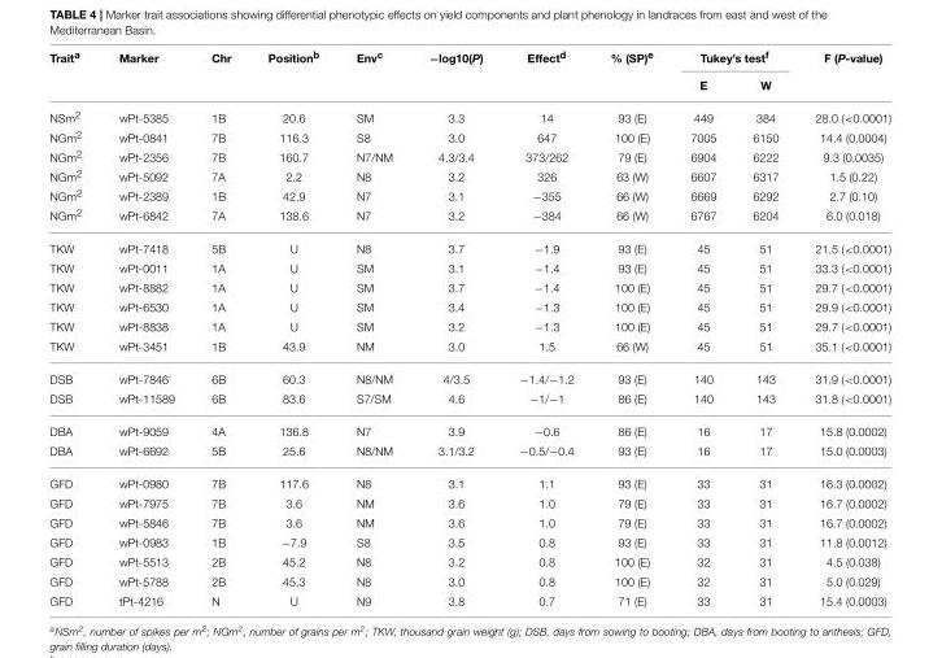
<table><thead><tr><td rowspan="2">Trait<sup>a</sup></td><td rowspan="2">Marker</td><td rowspan="2">Chr</td><td rowspan="2">Position<sup>b</sup></td><td rowspan="2">Env<sup>c</sup></td><td rowspan="2">−log10(P)</td><td rowspan="2">Effect<sup>d</sup></td><td rowspan="2">% (SP)<sup>e</sup></td><td colspan="2">Tukey’s test<sup>f</sup></td><td rowspan="2">F (P-value)</td></tr><tr><td>E</td><td>W</td></tr></thead><tbody><tr><td>NSm<sup>2</sup></td><td>wPt-5385</td><td>1B</td><td>20.6</td><td>SM</td><td>3.3</td><td>14</td><td>93 (E)</td><td>449</td><td>384</td><td>28.0 (&lt;0.0001)</td></tr><tr><td>NGm<sup>2</sup></td><td>wPt-0841</td><td>7B</td><td>116.3</td><td>S8</td><td>3.0</td><td>647</td><td>100 (E)</td><td>7005</td><td>6150</td><td>14.4 (0.0004)</td></tr><tr><td>NGm<sup>2</sup></td><td>wPt-2356</td><td>7B</td><td>160.7</td><td>N7/NM</td><td>4.3/3.4</td><td>373/262</td><td>79 (E)</td><td>6904</td><td>6222</td><td>9.3 (0.0035)</td></tr><tr><td>NGm<sup>2</sup></td><td>wPt-5092</td><td>7A</td><td>2.2</td><td>N8</td><td>3.2</td><td>326</td><td>63 (W)</td><td>6607</td><td>6317</td><td>1.5 (0.22)</td></tr><tr><td>NGm<sup>2</sup></td><td>wPt-2389</td><td>1B</td><td>42.9</td><td>N7</td><td>3.1</td><td>−355</td><td>66 (W)</td><td>6669</td><td>6292</td><td>2.7 (0.10)</td></tr><tr><td>NGm<sup>2</sup></td><td>wPt-6842</td><td>7A</td><td>138.6</td><td>N7</td><td>3.2</td><td>−384</td><td>66 (W)</td><td>6767</td><td>6204</td><td>6.0 (0.018)</td></tr><tr><td>TKW</td><td>wPt-7418</td><td>5B</td><td>U</td><td>N8</td><td>3.7</td><td>−1.9</td><td>93 (E)</td><td>45</td><td>51</td><td>21.5 (&lt;0.0001)</td></tr><tr><td>TKW</td><td>wPt-0011</td><td>1A</td><td>U</td><td>SM</td><td>3.1</td><td>−1.4</td><td>93 (E)</td><td>45</td><td>51</td><td>33.3 (&lt;0.0001)</td></tr><tr><td>TKW</td><td>wPt-8882</td><td>1A</td><td>U</td><td>SM</td><td>3.7</td><td>−1.4</td><td>100 (E)</td><td>45</td><td>51</td><td>29.7 (&lt;0.0001)</td></tr><tr><td>TKW</td><td>wPt-6530</td><td>1A</td><td>U</td><td>SM</td><td>3.4</td><td>−1.3</td><td>100 (E)</td><td>45</td><td>51</td><td>29.9 (&lt;0.0001)</td></tr><tr><td>TKW</td><td>wPt-8838</td><td>1A</td><td>U</td><td>SM</td><td>3.2</td><td>−1.3</td><td>100 (E)</td><td>45</td><td>51</td><td>29.7 (&lt;0.0001)</td></tr><tr><td>TKW</td><td>wPt-3451</td><td>1B</td><td>43.9</td><td>NM</td><td>3.0</td><td>1.5</td><td>66 (W)</td><td>45</td><td>51</td><td>35.1 (&lt;0.0001)</td></tr><tr><td>DSB</td><td>wPt-7846</td><td>6B</td><td>60.3</td><td>N8/NM</td><td>4/3.5</td><td>−1.4/−1.2</td><td>93 (E)</td><td>140</td><td>143</td><td>31.9 (&lt;0.0001)</td></tr><tr><td>DSB</td><td>wPt-11589</td><td>6B</td><td>83.6</td><td>S7/SM</td><td>4.6</td><td>−1/−1</td><td>86 (E)</td><td>140</td><td>143</td><td>31.8 (&lt;0.0001)</td></tr><tr><td>DBA</td><td>wPt-9059</td><td>4A</td><td>136.8</td><td>N7</td><td>3.9</td><td>−0.6</td><td>86 (E)</td><td>16</td><td>17</td><td>15.8 (0.0002)</td></tr><tr><td>DBA</td><td>wPt-6692</td><td>5B</td><td>25.6</td><td>N8/NM</td><td>3.1/3.2</td><td>−0.5/−0.4</td><td>93 (E)</td><td>16</td><td>17</td><td>15.0 (0.0003)</td></tr><tr><td>GFD</td><td>wPt-0980</td><td>7B</td><td>117.6</td><td>N8</td><td>3.1</td><td>1.1</td><td>93 (E)</td><td>33</td><td>31</td><td>16.3 (0.0002)</td></tr><tr><td>GFD</td><td>wPt-7975</td><td>7B</td><td>3.6</td><td>NM</td><td>3.6</td><td>1.0</td><td>79 (E)</td><td>33</td><td>31</td><td>16.7 (0.0002)</td></tr><tr><td>GFD</td><td>wPt-5846</td><td>7B</td><td>3.6</td><td>NM</td><td>3.6</td><td>1.0</td><td>79 (E)</td><td>33</td><td>31</td><td>16.7 (0.0002)</td></tr><tr><td>GFD</td><td>wPt-0983</td><td>1B</td><td>−7.9</td><td>S8</td><td>3.5</td><td>0.8</td><td>93 (E)</td><td>33</td><td>31</td><td>11.8 (0.0012)</td></tr><tr><td>GFD</td><td>wPt-5513</td><td>2B</td><td>45.2</td><td>N8</td><td>3.2</td><td>0.8</td><td>100 (E)</td><td>32</td><td>31</td><td>4.5 (0.038)</td></tr><tr><td>GFD</td><td>wPt-5788</td><td>2B</td><td>45.3</td><td>N8</td><td>3.0</td><td>0.8</td><td>100 (E)</td><td>32</td><td>31</td><td>5.0 (0.029)</td></tr><tr><td>GFD</td><td>tPt-4216</td><td>N</td><td>U</td><td>N9</td><td>3.8</td><td>0.7</td><td>71 (E)</td><td>33</td><td>31</td><td>15.4 (0.0003)</td></tr></tbody></table>